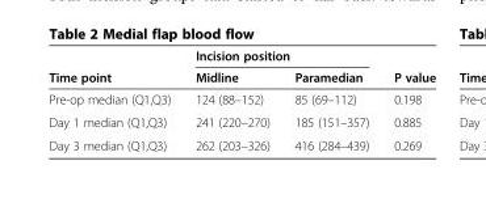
<table><thead><tr><td rowspan="2">Time point</td><td colspan="2">Incision position</td><td rowspan="2">P value</td></tr><tr><td>Midline</td><td>Paramedian</td></tr></thead><tbody><tr><td>Pre-op median (Q1,Q3)</td><td>124 (88–152)</td><td>85 (69–112)</td><td>0.198</td></tr><tr><td>Day 1 median (Q1,Q3)</td><td>241 (220–270)</td><td>185 (151–357)</td><td>0.885</td></tr><tr><td>Day 3 median (Q1,Q3)</td><td>262 (203–326)</td><td>416 (284–439)</td><td>0.269</td></tr></tbody></table>